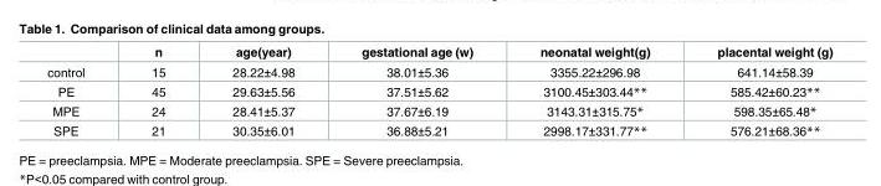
<table><thead><tr><td></td><td>n</td><td>age(year)</td><td>gestational age (w)</td><td>neonatal weight(g)</td><td>placental weight (g)</td></tr></thead><tbody><tr><td>control</td><td>15</td><td>28.22±4.98</td><td>38.01±5.36</td><td>3355.22±296.98</td><td>641.14±58.39</td></tr><tr><td>PE</td><td>45</td><td>29.63±5.56</td><td>37.51±5.62</td><td>3100.45±303.44**</td><td>585.42±60.23**</td></tr><tr><td>MPE</td><td>24</td><td>28.41±5.37</td><td>37.67±6.19</td><td>3143.31±315.75*</td><td>598.35±65.48*</td></tr><tr><td>SPE</td><td>21</td><td>30.35±6.01</td><td>36.88±5.21</td><td>2998.17±331.77**</td><td>576.21±68.36**</td></tr></tbody></table>